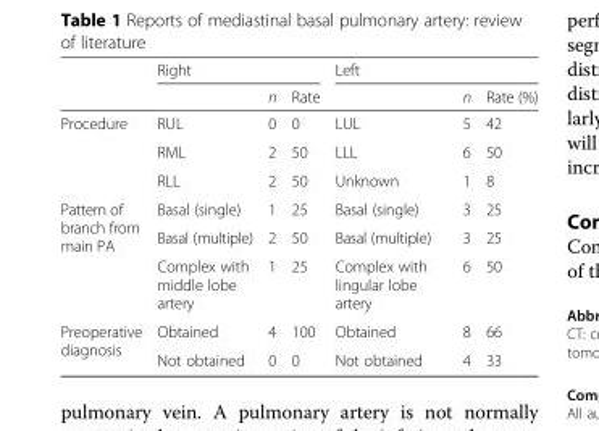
<table><thead><tr><td rowspan="2"></td><td colspan="3">Right</td><td colspan="3">Left</td></tr><tr><td></td><td>n</td><td>Rate</td><td></td><td>n</td><td>Rate (%)</td></tr></thead><tbody><tr><td rowspan="3">Procedure</td><td>RUL</td><td>0</td><td>0</td><td>LUL</td><td>5</td><td>42</td></tr><tr><td>RML</td><td>2</td><td>50</td><td>LLL</td><td>6</td><td>50</td></tr><tr><td>RLL</td><td>2</td><td>50</td><td>Unknown</td><td>1</td><td>8</td></tr><tr><td rowspan="3">Pattern of branch from main PA</td><td>Basal (single)</td><td>1</td><td>25</td><td>Basal (single)</td><td>3</td><td>25</td></tr><tr><td>Basal (multiple)</td><td>2</td><td>50</td><td>Basal (multiple)</td><td>3</td><td>25</td></tr><tr><td>Complex with middle lobe artery</td><td>1</td><td>25</td><td>Complex with lingular lobe artery</td><td>6</td><td>50</td></tr><tr><td rowspan="2">Preoperative diagnosis</td><td>Obtained</td><td>4</td><td>100</td><td>Obtained</td><td>8</td><td>66</td></tr><tr><td>Not obtained</td><td>0</td><td>0</td><td>Not obtained</td><td>4</td><td>33</td></tr></tbody></table>